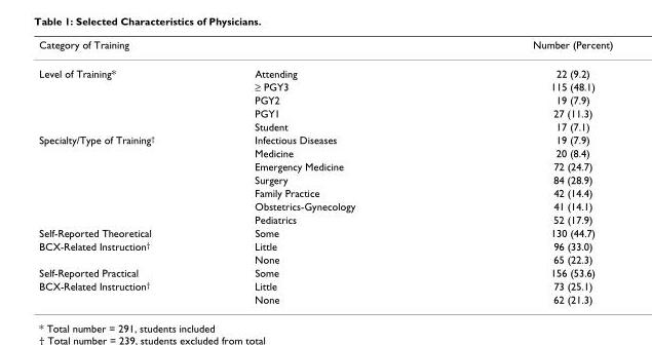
<table><thead><tr><td>Category of Training</td><td></td><td>Number (Percent)</td></tr></thead><tbody><tr><td rowspan="5">Level of Training*</td><td>Attending</td><td>22 (9.2)</td></tr><tr><td>≥ PGY3</td><td>115 (48.1)</td></tr><tr><td>PGY2</td><td>19 (7.9)</td></tr><tr><td>PGY1</td><td>27 (11.3)</td></tr><tr><td>Student</td><td>17 (7.1)</td></tr><tr><td rowspan="7">Specialty/Type of Training<sup>†</sup></td><td>Infectious Diseases</td><td>19 (7.9)</td></tr><tr><td>Medicine</td><td>20 (8.4)</td></tr><tr><td>Emergency Medicine</td><td>72 (24.7)</td></tr><tr><td>Surgery</td><td>84 (28.9)</td></tr><tr><td>Family Practice</td><td>42 (14.4)</td></tr><tr><td>Obstetrics-Gynecology</td><td>41 (14.1)</td></tr><tr><td>Pediatrics</td><td>52 (17.9)</td></tr><tr><td>Self-Reported Theoretical</td><td>Some</td><td>130 (44.7)</td></tr><tr><td rowspan="2">BCX-Related Instruction<sup>†</sup></td><td>Little</td><td>96 (33.0)</td></tr><tr><td>None</td><td>65 (22.3)</td></tr><tr><td>Self-Reported Practical</td><td>Some</td><td>156 (53.6)</td></tr><tr><td rowspan="2">BCX-Related Instruction<sup>†</sup></td><td>Little</td><td>73 (25.1)</td></tr><tr><td>None</td><td>62 (21.3)</td></tr></tbody></table>